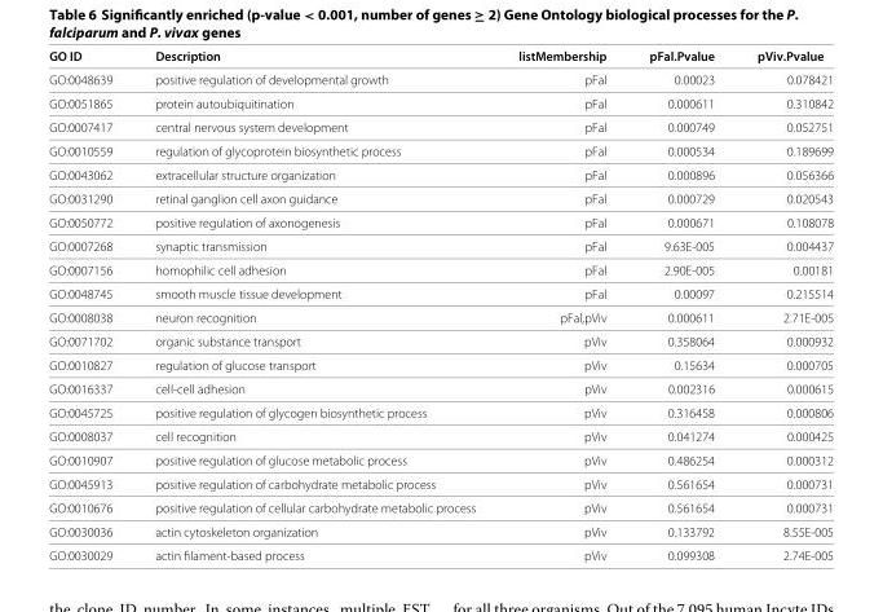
<table><thead><tr><td>GO ID</td><td>Description</td><td>listMembership</td><td>pFal.Pvalue</td><td>pViv.Pvalue</td></tr></thead><tbody><tr><td>GO:0048639</td><td>positive regulation of developmental growth</td><td>pFal</td><td>0.00023</td><td>0.078421</td></tr><tr><td>GO:0051865</td><td>protein autoubiquitination</td><td>pFal</td><td>0.000611</td><td>0.310842</td></tr><tr><td>GO:0007417</td><td>central nervous system development</td><td>pFal</td><td>0.000749</td><td>0.052751</td></tr><tr><td>GO:0010559</td><td>regulation of glycoprotein biosynthetic process</td><td>pFal</td><td>0.000534</td><td>0.189699</td></tr><tr><td>GO:0043062</td><td>extracellular structure organization</td><td>pFal</td><td>0.000896</td><td>0.056366</td></tr><tr><td>GO:0031290</td><td>retinal ganglion cell axon guidance</td><td>pFal</td><td>0.000729</td><td>0.020543</td></tr><tr><td>GO:0050772</td><td>positive regulation of axonogenesis</td><td>pFal</td><td>0.000671</td><td>0.108078</td></tr><tr><td>GO:0007268</td><td>synaptic transmission</td><td>pFal</td><td>9.63E-005</td><td>0.004437</td></tr><tr><td>GO:0007156</td><td>homophilic cell adhesion</td><td>pFal</td><td>2.90E-005</td><td>0.00181</td></tr><tr><td>GO:0048745</td><td>smooth muscle tissue development</td><td>pFal</td><td>0.00097</td><td>0.215514</td></tr><tr><td>GO:0008038</td><td>neuron recognition</td><td>pFal,pViv</td><td>0.000611</td><td>2.71E-005</td></tr><tr><td>GO:0071702</td><td>organic substance transport</td><td>pViv</td><td>0.358064</td><td>0.000932</td></tr><tr><td>GO:0010827</td><td>regulation of glucose transport</td><td>pViv</td><td>0.15634</td><td>0.000705</td></tr><tr><td>GO:0016337</td><td>cell-cell adhesion</td><td>pViv</td><td>0.002316</td><td>0.000615</td></tr><tr><td>GO:0045725</td><td>positive regulation of glycogen biosynthetic process</td><td>pViv</td><td>0.316458</td><td>0.000806</td></tr><tr><td>GO:0008037</td><td>cell recognition</td><td>pViv</td><td>0.041274</td><td>0.000425</td></tr><tr><td>GO:0010907</td><td>positive regulation of glucose metabolic process</td><td>pViv</td><td>0.486254</td><td>0.000312</td></tr><tr><td>GO:0045913</td><td>positive regulation of carbohydrate metabolic process</td><td>pViv</td><td>0.561654</td><td>0.000731</td></tr><tr><td>GO:0010676</td><td>positive regulation of cellular carbohydrate metabolic process</td><td>pViv</td><td>0.561654</td><td>0.000731</td></tr><tr><td>GO:0030036</td><td>actin cytoskeleton organization</td><td>pViv</td><td>0.133792</td><td>8.55E-005</td></tr><tr><td>GO:0030029</td><td>actin filament-based process</td><td>pViv</td><td>0.099308</td><td>2.74E-005</td></tr></tbody></table>